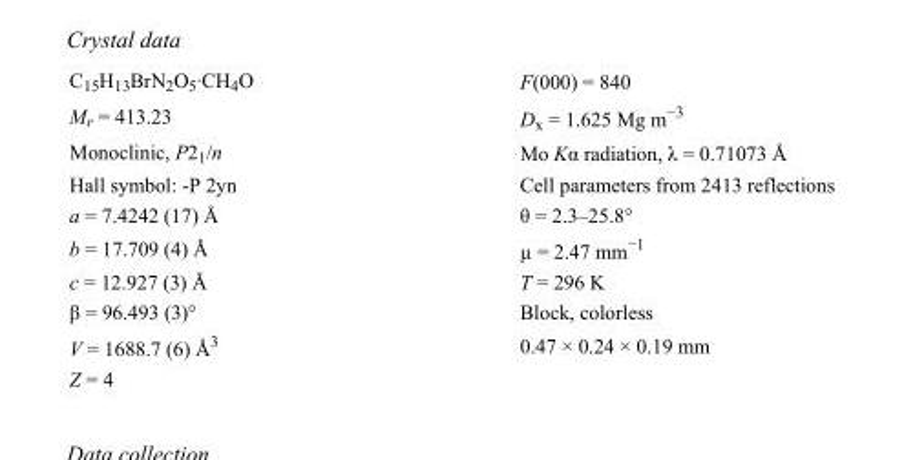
<table><tbody><tr><td>C<sub>15</sub>H<sub>13</sub>BrN<sub>2</sub>O<sub>5</sub>·CH<sub>4</sub>O</td><td>F(000) = 840</td></tr><tr><td>M<sub>r</sub> = 413.23</td><td>D<sub>x</sub> = 1.625 Mg m<sup>−3</sup></td></tr><tr><td>Monoclinic, P2<sub>1</sub>/n</td><td>Mo Kα radiation, λ = 0.71073 Å</td></tr><tr><td>Hall symbol: -P 2yn</td><td>Cell parameters from 2413 reflections</td></tr><tr><td>a = 7.4242 (17) Å</td><td>θ = 2.3–25.8°</td></tr><tr><td>b = 17.709 (4) Å</td><td>µ = 2.47 mm<sup>−1</sup></td></tr><tr><td>c = 12.927 (3) Å</td><td>T = 296 K</td></tr><tr><td>β = 96.493 (3)°</td><td>Block, colorless</td></tr><tr><td>V = 1688.7 (6) Å<sup>3</sup></td><td>0.47 × 0.24 × 0.19 mm</td></tr><tr><td>Z = 4</td><td></td></tr></tbody></table>